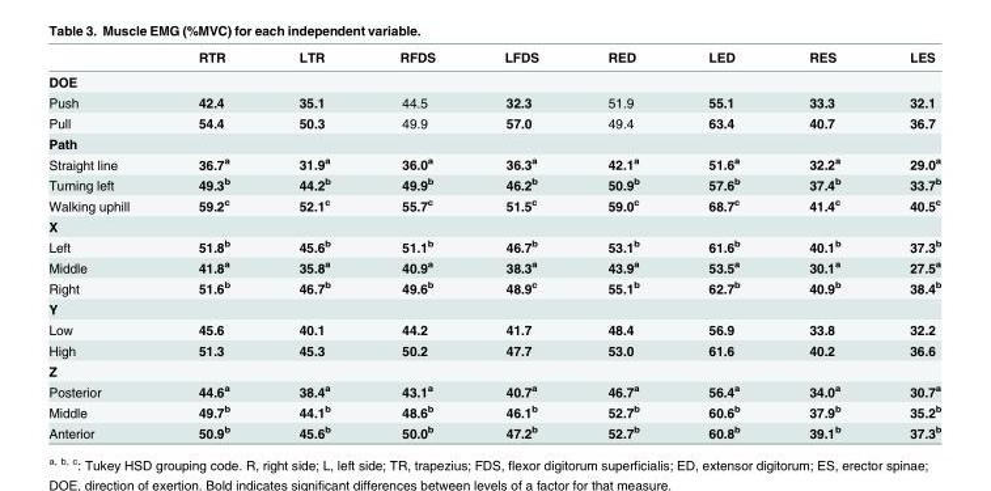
<table><thead><tr><td></td><td>RTR</td><td>LTR</td><td>RFDS</td><td>LFDS</td><td>RED</td><td>LED</td><td>RES</td><td>LES</td></tr></thead><tbody><tr><td colspan="9">DOE</td></tr><tr><td>Push</td><td>42.4</td><td>35.1</td><td>44.5</td><td>32.3</td><td>51.9</td><td>55.1</td><td>33.3</td><td>32.1</td></tr><tr><td>Pull</td><td>54.4</td><td>50.3</td><td>49.9</td><td>57.0</td><td>49.4</td><td>63.4</td><td>40.7</td><td>36.7</td></tr><tr><td colspan="9">Path</td></tr><tr><td>Straight line</td><td>36.7<sup>a</sup></td><td>31.9<sup>a</sup></td><td>36.0<sup>a</sup></td><td>36.3<sup>a</sup></td><td>42.1<sup>a</sup></td><td>51.6<sup>a</sup></td><td>32.2<sup>a</sup></td><td>29.0<sup>a</sup></td></tr><tr><td>Turning left</td><td>49.3<sup>b</sup></td><td>44.2<sup>b</sup></td><td>49.9<sup>b</sup></td><td>46.2<sup>b</sup></td><td>50.9<sup>b</sup></td><td>57.6<sup>b</sup></td><td>37.4<sup>b</sup></td><td>33.7<sup>b</sup></td></tr><tr><td>Walking uphill</td><td>59.2<sup>c</sup></td><td>52.1<sup>c</sup></td><td>55.7<sup>c</sup></td><td>51.5<sup>c</sup></td><td>59.0<sup>c</sup></td><td>68.7<sup>c</sup></td><td>41.4<sup>c</sup></td><td>40.5<sup>c</sup></td></tr><tr><td colspan="9">X</td></tr><tr><td>Left</td><td>51.8<sup>b</sup></td><td>45.6<sup>b</sup></td><td>51.1<sup>b</sup></td><td>46.7<sup>b</sup></td><td>53.1<sup>b</sup></td><td>61.6<sup>b</sup></td><td>40.1<sup>b</sup></td><td>37.3<sup>b</sup></td></tr><tr><td>Middle</td><td>41.8<sup>a</sup></td><td>35.8<sup>a</sup></td><td>40.9<sup>a</sup></td><td>38.3<sup>a</sup></td><td>43.9<sup>a</sup></td><td>53.5<sup>a</sup></td><td>30.1<sup>a</sup></td><td>27.5<sup>a</sup></td></tr><tr><td>Right</td><td>51.6<sup>b</sup></td><td>46.7<sup>b</sup></td><td>49.6<sup>b</sup></td><td>48.9<sup>c</sup></td><td>55.1<sup>b</sup></td><td>62.7<sup>b</sup></td><td>40.9<sup>b</sup></td><td>38.4<sup>b</sup></td></tr><tr><td colspan="9">Y</td></tr><tr><td>Low</td><td>45.6</td><td>40.1</td><td>44.2</td><td>41.7</td><td>48.4</td><td>56.9</td><td>33.8</td><td>32.2</td></tr><tr><td>High</td><td>51.3</td><td>45.3</td><td>50.2</td><td>47.7</td><td>53.0</td><td>61.6</td><td>40.2</td><td>36.6</td></tr><tr><td colspan="9">Z</td></tr><tr><td>Posterior</td><td>44.6<sup>a</sup></td><td>38.4<sup>a</sup></td><td>43.1<sup>a</sup></td><td>40.7<sup>a</sup></td><td>46.7<sup>a</sup></td><td>56.4<sup>a</sup></td><td>34.0<sup>a</sup></td><td>30.7<sup>a</sup></td></tr><tr><td>Middle</td><td>49.7<sup>b</sup></td><td>44.1<sup>b</sup></td><td>48.6<sup>b</sup></td><td>46.1<sup>b</sup></td><td>52.7<sup>b</sup></td><td>60.6<sup>b</sup></td><td>37.9<sup>b</sup></td><td>35.2<sup>b</sup></td></tr><tr><td>Anterior</td><td>50.9<sup>b</sup></td><td>45.6<sup>b</sup></td><td>50.0<sup>b</sup></td><td>47.2<sup>b</sup></td><td>52.7<sup>b</sup></td><td>60.8<sup>b</sup></td><td>39.1<sup>b</sup></td><td>37.3<sup>b</sup></td></tr></tbody></table>